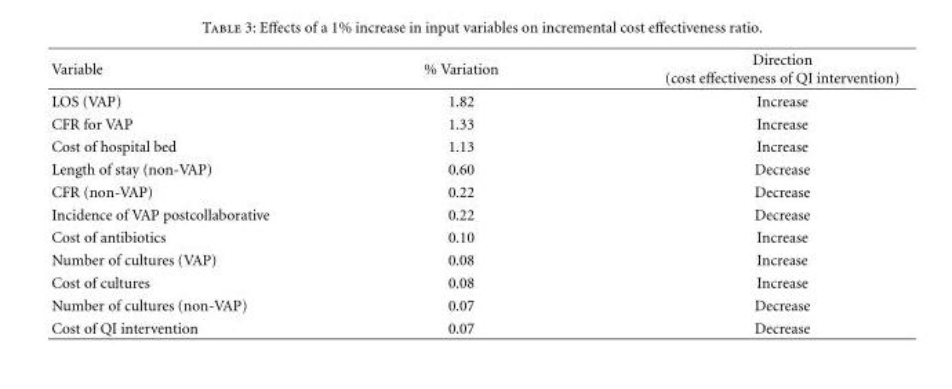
<table><thead><tr><td>Variable</td><td>% Variation</td><td>Direction (cost effectiveness of QI intervention)</td></tr></thead><tbody><tr><td>LOS (VAP)</td><td>1.82</td><td>Increase</td></tr><tr><td>CFR for VAP</td><td>1.33</td><td>Increase</td></tr><tr><td>Cost of hospital bed</td><td>1.13</td><td>Increase</td></tr><tr><td>Length of stay (non-VAP)</td><td>0.60</td><td>Decrease</td></tr><tr><td>CFR (non-VAP)</td><td>0.22</td><td>Decrease</td></tr><tr><td>Incidence of VAP postcollaborative</td><td>0.22</td><td>Decrease</td></tr><tr><td>Cost of antibiotics</td><td>0.10</td><td>Increase</td></tr><tr><td>Number of cultures (VAP)</td><td>0.08</td><td>Increase</td></tr><tr><td>Cost of cultures</td><td>0.08</td><td>Increase</td></tr><tr><td>Number of cultures (non-VAP)</td><td>0.07</td><td>Decrease</td></tr><tr><td>Cost of QI intervention</td><td>0.07</td><td>Decrease</td></tr></tbody></table>